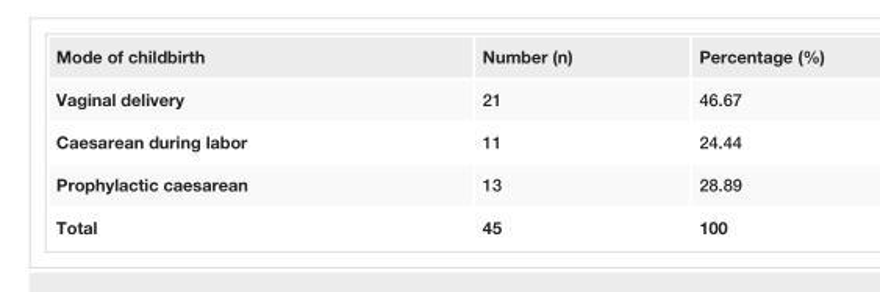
<table><tbody><tr><td>Mode of childbirth</td><td>Number (n)</td><td>Percentage (%)</td></tr><tr><td>Vaginal delivery</td><td>21</td><td>46.67</td></tr><tr><td>Caesarean during labor</td><td>11</td><td>24.44</td></tr><tr><td>Prophylactic caesarean</td><td>13</td><td>28.89</td></tr><tr><td>Total</td><td>45</td><td>100</td></tr></tbody></table>